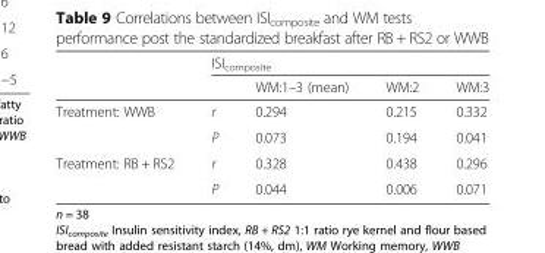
<table><thead><tr><td rowspan="2"></td><td colspan="4">ISI<sub>composite</sub></td></tr><tr><td></td><td>WM:1–3 (mean)</td><td>WM:2</td><td>WM:3</td></tr></thead><tbody><tr><td rowspan="2">Treatment: WWB</td><td>r</td><td>0.294</td><td>0.215</td><td>0.332</td></tr><tr><td>P</td><td>0.073</td><td>0.194</td><td>0.041</td></tr><tr><td rowspan="2">Treatment: RB + RS2</td><td>r</td><td>0.328</td><td>0.438</td><td>0.296</td></tr><tr><td>P</td><td>0.044</td><td>0.006</td><td>0.071</td></tr></tbody></table>